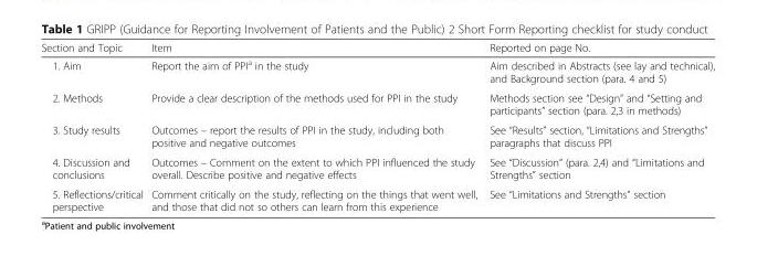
<table><thead><tr><td>Section and Topic</td><td>Item</td><td>Reported on page No.</td></tr></thead><tbody><tr><td>1. Aim</td><td>Report the aim of PPI<sup>a</sup> in the study</td><td>Aim described in Abstracts (see lay and technical), and Background section (para. 4 and 5)</td></tr><tr><td>2. Methods</td><td>Provide a clear description of the methods used for PPI in the study</td><td>Methods section see “Design” and “Setting and participants” section (para. 2,3 in methods)</td></tr><tr><td>3. Study results</td><td>Outcomes – report the results of PPI in the study, including both positive and negative outcomes</td><td>See “Results” section, “Limitations and Strengths” paragraphs that discuss PPI</td></tr><tr><td>4. Discussion and conclusions</td><td>Outcomes – Comment on the extent to which PPI influenced the study overall. Describe positive and negative effects</td><td>See “Discussion” (para. 2,4) and “Limitations and Strengths” section</td></tr><tr><td>5. Reflections/critical perspective</td><td>Comment critically on the study, reflecting on the things that went well, and those that did not so others can learn from this experience</td><td>See “Limitations and Strengths” section</td></tr></tbody></table>